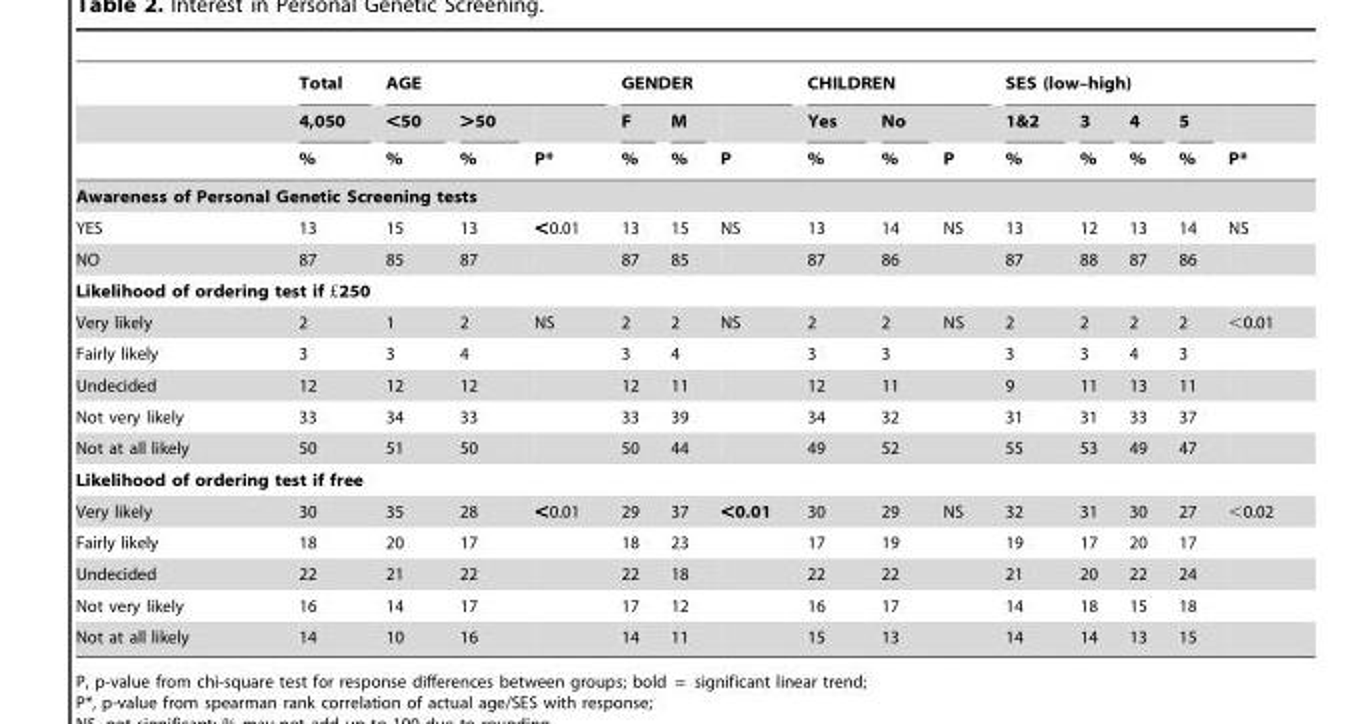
<table><thead><tr><td rowspan="3"></td><td rowspan="3">Total 4,050 %</td><td colspan="3">AGE</td><td colspan="3">GENDER</td><td colspan="3">CHILDREN</td><td colspan="5">SES (low–high)</td></tr><tr><td rowspan="2">&lt;50 %</td><td rowspan="2">&gt;50 %</td><td rowspan="2">P*</td><td rowspan="2">F %</td><td rowspan="2">M %</td><td rowspan="2">P</td><td rowspan="2">Yes %</td><td rowspan="2">No %</td><td rowspan="2">P</td><td rowspan="2">1&amp;2 %</td><td rowspan="2">3 %</td><td rowspan="2">4 %</td><td rowspan="2">5 %</td><td rowspan="2">P*</td></tr><tr></tr></thead><tbody><tr><td colspan="16">Awareness of Personal Genetic Screening tests</td></tr><tr><td>YES</td><td>13</td><td>15</td><td>13</td><td>&lt;0.01</td><td>13</td><td>15</td><td>NS</td><td>13</td><td>14</td><td>NS</td><td>13</td><td>12</td><td>13</td><td>14</td><td>NS</td></tr><tr><td>NO</td><td>87</td><td>85</td><td>87</td><td></td><td>87</td><td>85</td><td></td><td>87</td><td>86</td><td></td><td>87</td><td>88</td><td>87</td><td>86</td><td></td></tr><tr><td colspan="16">Likelihood of ordering test if £250</td></tr><tr><td>Very likely</td><td>2</td><td>1</td><td>2</td><td>NS</td><td>2</td><td>2</td><td>NS</td><td>2</td><td>2</td><td>NS</td><td>2</td><td>2</td><td>2</td><td>2</td><td>&lt;0.01</td></tr><tr><td>Fairly likely</td><td>3</td><td>3</td><td>4</td><td></td><td>3</td><td>4</td><td></td><td>3</td><td>3</td><td></td><td>3</td><td>3</td><td>4</td><td>3</td><td></td></tr><tr><td>Undecided</td><td>12</td><td>12</td><td>12</td><td></td><td>12</td><td>11</td><td></td><td>12</td><td>11</td><td></td><td>9</td><td>11</td><td>13</td><td>11</td><td></td></tr><tr><td>Not very likely</td><td>33</td><td>34</td><td>33</td><td></td><td>33</td><td>39</td><td></td><td>34</td><td>32</td><td></td><td>31</td><td>31</td><td>33</td><td>37</td><td></td></tr><tr><td>Not at all likely</td><td>50</td><td>51</td><td>50</td><td></td><td>50</td><td>44</td><td></td><td>49</td><td>52</td><td></td><td>55</td><td>53</td><td>49</td><td>47</td><td></td></tr><tr><td colspan="16">Likelihood of ordering test if free</td></tr><tr><td>Very likely</td><td>30</td><td>35</td><td>28</td><td>&lt;0.01</td><td>29</td><td>37</td><td>&lt;0.01</td><td>30</td><td>29</td><td>NS</td><td>32</td><td>31</td><td>30</td><td>27</td><td>&lt;0.02</td></tr><tr><td>Fairly likely</td><td>18</td><td>20</td><td>17</td><td></td><td>18</td><td>23</td><td></td><td>17</td><td>19</td><td></td><td>19</td><td>17</td><td>20</td><td>17</td><td></td></tr><tr><td>Undecided</td><td>22</td><td>21</td><td>22</td><td></td><td>22</td><td>18</td><td></td><td>22</td><td>22</td><td></td><td>21</td><td>20</td><td>22</td><td>24</td><td></td></tr><tr><td>Not very likely</td><td>16</td><td>14</td><td>17</td><td></td><td>17</td><td>12</td><td></td><td>16</td><td>17</td><td></td><td>14</td><td>18</td><td>15</td><td>18</td><td></td></tr><tr><td>Not at all likely</td><td>14</td><td>10</td><td>16</td><td></td><td>14</td><td>11</td><td></td><td>15</td><td>13</td><td></td><td>14</td><td>14</td><td>13</td><td>15</td><td></td></tr></tbody></table>